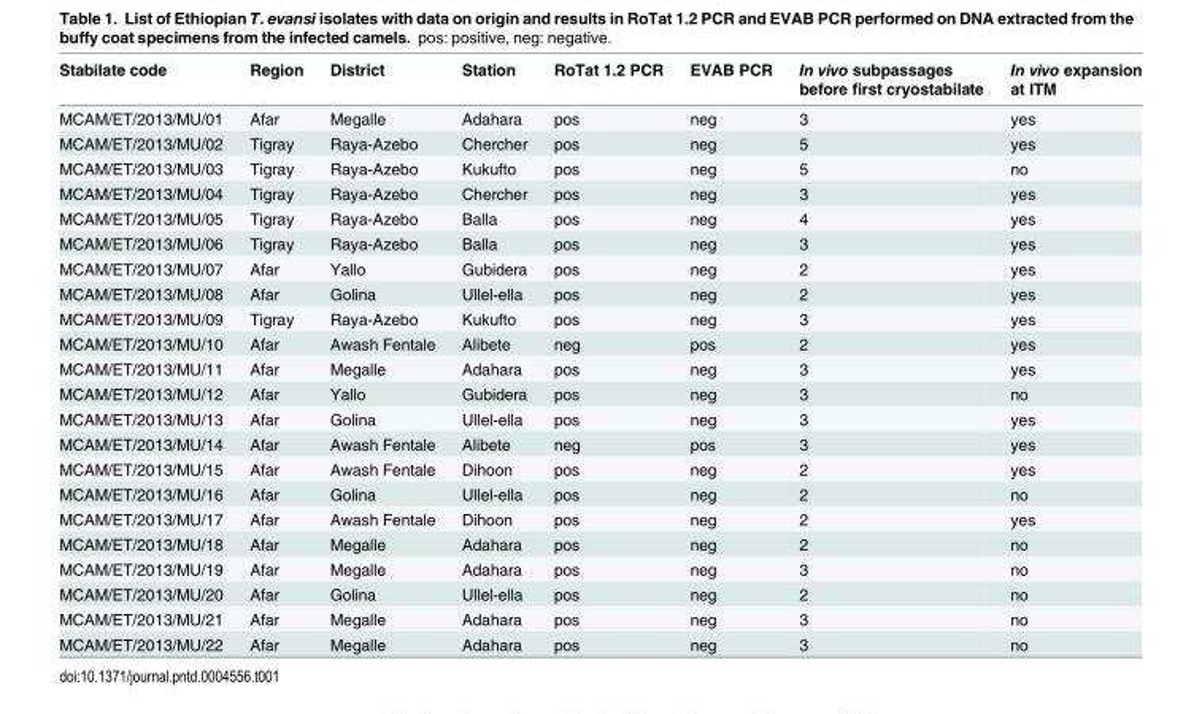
<table><thead><tr><td>Stabilate code</td><td>Region</td><td>District</td><td>Station</td><td>RoTat 1.2 PCR</td><td>EVAB PCR</td><td>In vivo subpassages before first cryostabilate</td><td>In vivo expansion at ITM</td></tr></thead><tbody><tr><td>MCAM/ET/2013/MU/01</td><td>Afar</td><td>Megalle</td><td>Adahara</td><td>pos</td><td>neg</td><td>3</td><td>yes</td></tr><tr><td>MCAM/ET/2013/MU/02</td><td>Tigray</td><td>Raya-Azebo</td><td>Chercher</td><td>pos</td><td>neg</td><td>5</td><td>yes</td></tr><tr><td>MCAM/ET/2013/MU/03</td><td>Tigray</td><td>Raya-Azebo</td><td>Kukufto</td><td>pos</td><td>neg</td><td>5</td><td>no</td></tr><tr><td>MCAM/ET/2013/MU/04</td><td>Tigray</td><td>Raya-Azebo</td><td>Chercher</td><td>pos</td><td>neg</td><td>3</td><td>yes</td></tr><tr><td>MCAM/ET/2013/MU/05</td><td>Tigray</td><td>Raya-Azebo</td><td>Balla</td><td>pos</td><td>neg</td><td>4</td><td>yes</td></tr><tr><td>MCAM/ET/2013/MU/06</td><td>Tigray</td><td>Raya-Azebo</td><td>Balla</td><td>pos</td><td>neg</td><td>3</td><td>yes</td></tr><tr><td>MCAM/ET/2013/MU/07</td><td>Afar</td><td>Yallo</td><td>Gubidera</td><td>pos</td><td>neg</td><td>2</td><td>yes</td></tr><tr><td>MCAM/ET/2013/MU/08</td><td>Afar</td><td>Golina</td><td>Ullel-ella</td><td>pos</td><td>neg</td><td>2</td><td>yes</td></tr><tr><td>MCAM/ET/2013/MU/09</td><td>Tigray</td><td>Raya-Azebo</td><td>Kukufto</td><td>pos</td><td>neg</td><td>3</td><td>yes</td></tr><tr><td>MCAM/ET/2013/MU/10</td><td>Afar</td><td>Awash Fentale</td><td>Alibete</td><td>neg</td><td>pos</td><td>2</td><td>yes</td></tr><tr><td>MCAM/ET/2013/MU/11</td><td>Afar</td><td>Megalle</td><td>Adahara</td><td>pos</td><td>neg</td><td>3</td><td>yes</td></tr><tr><td>MCAM/ET/2013/MU/12</td><td>Afar</td><td>Yallo</td><td>Gubidera</td><td>pos</td><td>neg</td><td>3</td><td>no</td></tr><tr><td>MCAM/ET/2013/MU/13</td><td>Afar</td><td>Golina</td><td>Ullel-ella</td><td>pos</td><td>neg</td><td>3</td><td>yes</td></tr><tr><td>MCAM/ET/2013/MU/14</td><td>Afar</td><td>Awash Fentale</td><td>Alibete</td><td>neg</td><td>pos</td><td>3</td><td>yes</td></tr><tr><td>MCAM/ET/2013/MU/15</td><td>Afar</td><td>Awash Fentale</td><td>Dihoon</td><td>pos</td><td>neg</td><td>2</td><td>yes</td></tr><tr><td>MCAM/ET/2013/MU/16</td><td>Afar</td><td>Golina</td><td>Ullel-ella</td><td>pos</td><td>neg</td><td>2</td><td>no</td></tr><tr><td>MCAM/ET/2013/MU/17</td><td>Afar</td><td>Awash Fentale</td><td>Dihoon</td><td>pos</td><td>neg</td><td>2</td><td>yes</td></tr><tr><td>MCAM/ET/2013/MU/18</td><td>Afar</td><td>Megalle</td><td>Adahara</td><td>pos</td><td>neg</td><td>2</td><td>no</td></tr><tr><td>MCAM/ET/2013/MU/19</td><td>Afar</td><td>Megalle</td><td>Adahara</td><td>pos</td><td>neg</td><td>3</td><td>no</td></tr><tr><td>MCAM/ET/2013/MU/20</td><td>Afar</td><td>Golina</td><td>Ullel-ella</td><td>pos</td><td>neg</td><td>2</td><td>no</td></tr><tr><td>MCAM/ET/2013/MU/21</td><td>Afar</td><td>Megalle</td><td>Adahara</td><td>pos</td><td>neg</td><td>3</td><td>no</td></tr><tr><td>MCAM/ET/2013/MU/22</td><td>Afar</td><td>Megalle</td><td>Adahara</td><td>pos</td><td>neg</td><td>3</td><td>no</td></tr></tbody></table>